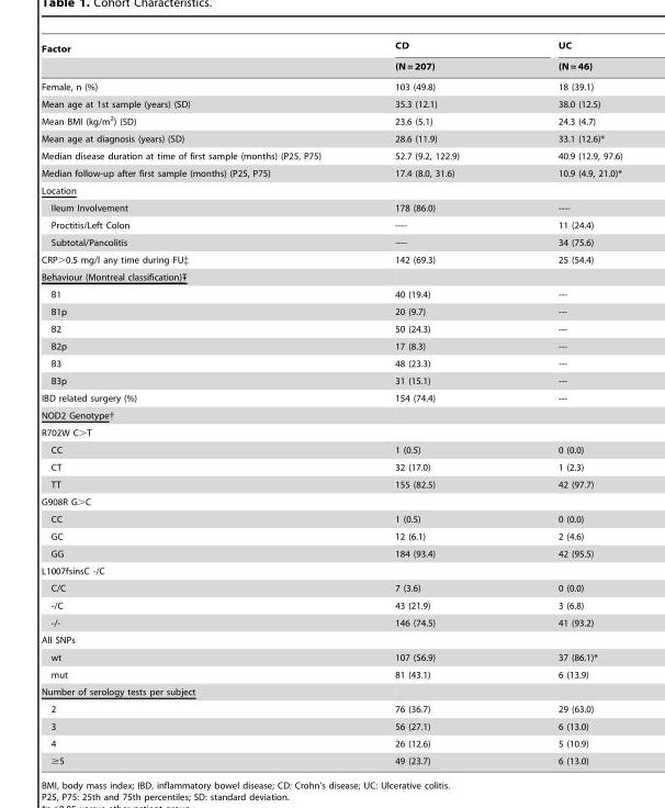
<table><thead><tr><td rowspan="2">Factor</td><td rowspan="2">CD (N = 207)</td><td rowspan="2">UC (N = 46)</td></tr><tr></tr></thead><tbody><tr><td>Female, n (%)</td><td>103 (49.8)</td><td>18 (39.1)</td></tr><tr><td>Mean age at 1st sample (years) (SD)</td><td>35.3 (12.1)</td><td>38.0 (12.5)</td></tr><tr><td>Mean BMI (kg/m<sup>2</sup>) (SD)</td><td>23.6 (5.1)</td><td>24.3 (4.7)</td></tr><tr><td>Mean age at diagnosis (years) (SD)</td><td>28.6 (11.9)</td><td>33.1 (12.6)*</td></tr><tr><td>Median disease duration at time of first sample (months) (P25, P75)</td><td>52.7 (9.2, 122.9)</td><td>40.9 (12.9, 97.6)</td></tr><tr><td>Median follow-up after first sample (months) (P25, P75)</td><td>17.4 (8.0, 31.6)</td><td>10.9 (4.9, 21.0)*</td></tr><tr><td colspan="3">Location</td></tr><tr><td>Ileum Involvement</td><td>178 (86.0)</td><td>----</td></tr><tr><td>Proctitis/Left Colon</td><td>----</td><td>11 (24.4)</td></tr><tr><td>Subtotal/Pancolitis</td><td>----</td><td>34 (75.6)</td></tr><tr><td>CRP&gt;0.5 mg/l any time during FU‡</td><td>142 (69.3)</td><td>25 (54.4)</td></tr><tr><td colspan="3">Behaviour (Montreal classification)T-</td></tr><tr><td>B1</td><td>40 (19.4)</td><td>---</td></tr><tr><td>B1p</td><td>20 (9.7)</td><td>---</td></tr><tr><td>B2</td><td>50 (24.3)</td><td>---</td></tr><tr><td>B2p</td><td>17 (8.3)</td><td>---</td></tr><tr><td>B3</td><td>48 (23.3)</td><td>---</td></tr><tr><td>B3p</td><td>31 (15.1)</td><td>---</td></tr><tr><td>IBD related surgery (%)</td><td>154 (74.4)</td><td>---</td></tr><tr><td colspan="3">NOD2 Genotype†</td></tr><tr><td colspan="3">R702W C&gt;T</td></tr><tr><td>CC</td><td>1 (0.5)</td><td>0 (0.0)</td></tr><tr><td>CT</td><td>32 (17.0)</td><td>1 (2.3)</td></tr><tr><td>TT</td><td>155 (82.5)</td><td>42 (97.7)</td></tr><tr><td colspan="3">G908R G&gt;C</td></tr><tr><td>CC</td><td>1 (0.5)</td><td>0 (0.0)</td></tr><tr><td>GC</td><td>12 (6.1)</td><td>2 (4.6)</td></tr><tr><td>GG</td><td>184 (93.4)</td><td>42 (95.5)</td></tr><tr><td colspan="3">L1007fsinsC -/C</td></tr><tr><td>C/C</td><td>7 (3.6)</td><td>0 (0.0)</td></tr><tr><td>-/C</td><td>43 (21.9)</td><td>3 (6.8)</td></tr><tr><td>-/-</td><td>146 (74.5)</td><td>41 (93.2)</td></tr><tr><td colspan="3">All SNPs</td></tr><tr><td>wt</td><td>107 (56.9)</td><td>37 (86.1)*</td></tr><tr><td>mut</td><td>81 (43.1)</td><td>6 (13.9)</td></tr><tr><td colspan="3">Number of serology tests per subject</td></tr><tr><td>2</td><td>76 (36.7)</td><td>29 (63.0)</td></tr><tr><td>3</td><td>56 (27.1)</td><td>6 (13.0)</td></tr><tr><td>4</td><td>26 (12.6)</td><td>5 (10.9)</td></tr><tr><td>≥5</td><td>49 (23.7)</td><td>6 (13.0)</td></tr></tbody></table>